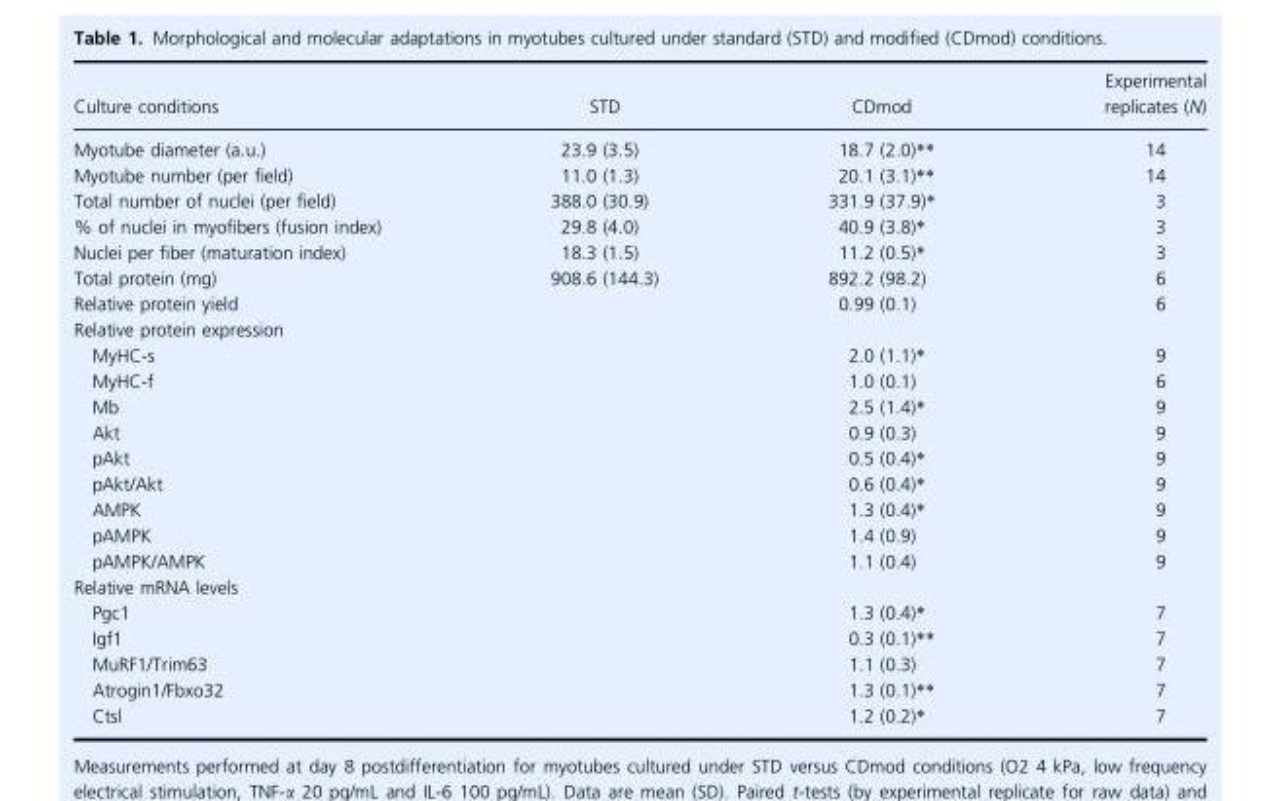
<table><thead><tr><td>Culture conditions</td><td>STD</td><td>CDmod</td><td>Experimental replicates (N)</td></tr></thead><tbody><tr><td>Myotube diameter (a.u.)</td><td>23.9 (3.5)</td><td>18.7 (2.0)**</td><td>14</td></tr><tr><td>Myotube number (per field)</td><td>11.0 (1.3)</td><td>20.1 (3.1)**</td><td>14</td></tr><tr><td>Total number of nuclei (per field)</td><td>388.0 (30.9)</td><td>331.9 (37.9)*</td><td>3</td></tr><tr><td>% of nuclei in myofibers (fusion index)</td><td>29.8 (4.0)</td><td>40.9 (3.8)*</td><td>3</td></tr><tr><td>Nuclei per fiber (maturation index)</td><td>18.3 (1.5)</td><td>11.2 (0.5)*</td><td>3</td></tr><tr><td>Total protein (mg)</td><td>908.6 (144.3)</td><td>892.2 (98.2)</td><td>6</td></tr><tr><td>Relative protein yield</td><td></td><td>0.99 (0.1)</td><td>6</td></tr><tr><td colspan="4">Relative protein expression</td></tr><tr><td>MyHC-s</td><td></td><td>2.0 (1.1)*</td><td>9</td></tr><tr><td>MyHC-f</td><td></td><td>1.0 (0.1)</td><td>6</td></tr><tr><td>Mb</td><td></td><td>2.5 (1.4)*</td><td>9</td></tr><tr><td>Akt</td><td></td><td>0.9 (0.3)</td><td>9</td></tr><tr><td>pAkt</td><td></td><td>0.5 (0.4)*</td><td>9</td></tr><tr><td>pAkt/Akt</td><td></td><td>0.6 (0.4)*</td><td>9</td></tr><tr><td>AMPK</td><td></td><td>1.3 (0.4)*</td><td>9</td></tr><tr><td>pAMPK</td><td></td><td>1.4 (0.9)</td><td>9</td></tr><tr><td>pAMPK/AMPK</td><td></td><td>1.1 (0.4)</td><td>9</td></tr><tr><td colspan="4">Relative mRNA levels</td></tr><tr><td>Pgc1</td><td></td><td>1.3 (0.4)*</td><td>7</td></tr><tr><td>Igf1</td><td></td><td>0.3 (0.1)**</td><td>7</td></tr><tr><td>MuRF1/Trim63</td><td></td><td>1.1 (0.3)</td><td>7</td></tr><tr><td>Atrogin1/Fbxo32</td><td></td><td>1.3 (0.1)**</td><td>7</td></tr><tr><td>Ctsl</td><td></td><td>1.2 (0.2)*</td><td>7</td></tr></tbody></table>